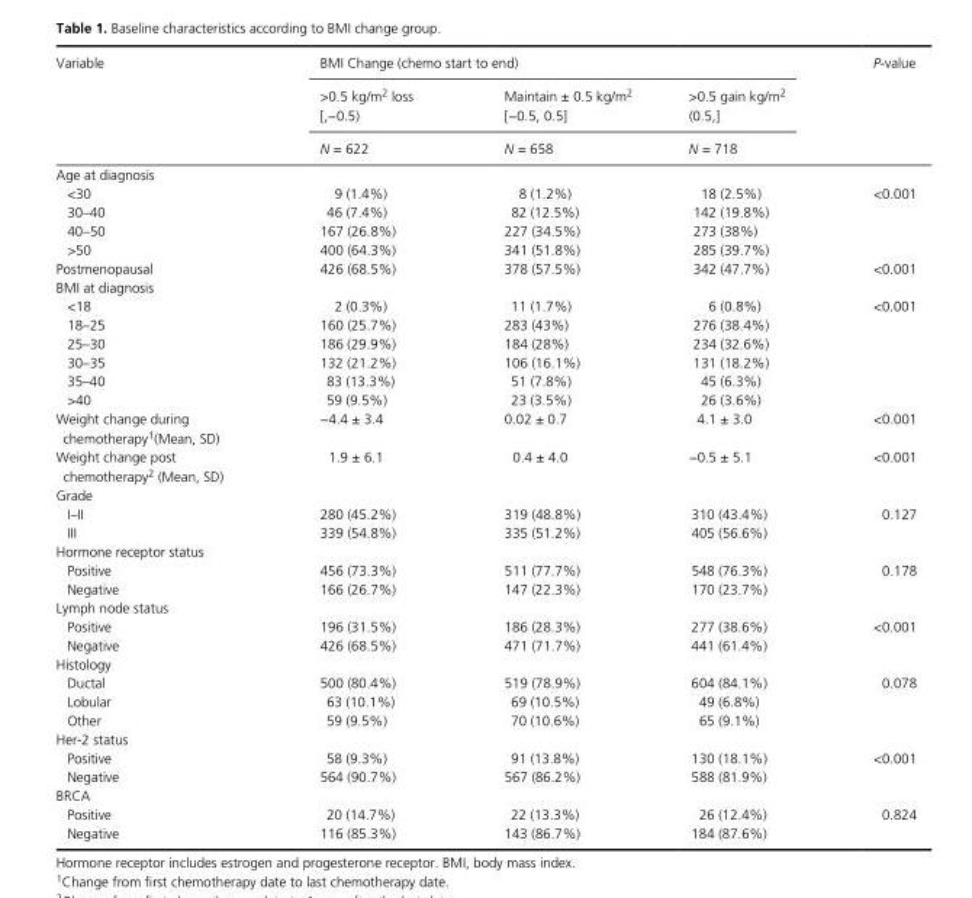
<table><thead><tr><td rowspan="3">Variable</td><td colspan="3">BMI Change (chemo start to end)</td><td rowspan="3">P- value</td></tr><tr><td rowspan="2">&gt;0.5 kg/m<sup>2</sup> loss [,−0.5) N = 622</td><td rowspan="2">Maintain ± 0.5 kg/m<sup>2</sup> [−0.5, 0.5] N = 658</td><td rowspan="2">&gt;0.5 gain kg/m<sup>2</sup> (0.5,] N = 718</td></tr><tr></tr></thead><tbody><tr><td colspan="5">Age at diagnosis</td></tr><tr><td>&lt;30</td><td>9 (1.4%)</td><td>8 (1.2%)</td><td>18 (2.5%)</td><td>&lt;0.001</td></tr><tr><td>30–40</td><td>46 (7.4%)</td><td>82 (12.5%)</td><td>142 (19.8%)</td><td></td></tr><tr><td>40–50</td><td>167 (26.8%)</td><td>227 (34.5%)</td><td>273 (38%)</td><td></td></tr><tr><td>&gt;50</td><td>400 (64.3%)</td><td>341 (51.8%)</td><td>285 (39.7%)</td><td></td></tr><tr><td>Postmenopausal</td><td>426 (68.5%)</td><td>378 (57.5%)</td><td>342 (47.7%)</td><td>&lt;0.001</td></tr><tr><td colspan="5">BMI at diagnosis</td></tr><tr><td>&lt;18</td><td>2 (0.3%)</td><td>11 (1.7%)</td><td>6 (0.8%)</td><td>&lt;0.001</td></tr><tr><td>18–25</td><td>160 (25.7%)</td><td>283 (43%)</td><td>276 (38.4%)</td><td></td></tr><tr><td>25–30</td><td>186 (29.9%)</td><td>184 (28%)</td><td>234 (32.6%)</td><td></td></tr><tr><td>30–35</td><td>132 (21.2%)</td><td>106 (16.1%)</td><td>131 (18.2%)</td><td></td></tr><tr><td>35–40</td><td>83 (13.3%)</td><td>51 (7.8%)</td><td>45 (6.3%)</td><td></td></tr><tr><td>&gt;40</td><td>59 (9.5%)</td><td>23 (3.5%)</td><td>26 (3.6%)</td><td></td></tr><tr><td>Weight change during chemotherapy1(Mean, SD)</td><td>−4.4 ± 3.4</td><td>0.02 ± 0.7</td><td>4.1 ± 3.0</td><td>&lt;0.001</td></tr><tr><td>Weight change post chemotherapy2 (Mean, SD)</td><td>1.9 ± 6.1</td><td>0.4 ± 4.0</td><td>−0.5 ± 5.1</td><td>&lt;0.001</td></tr><tr><td colspan="5">Grade</td></tr><tr><td>I–II</td><td>280 (45.2%)</td><td>319 (48.8%)</td><td>310 (43.4%)</td><td>0.127</td></tr><tr><td>III</td><td>339 (54.8%)</td><td>335 (51.2%)</td><td>405 (56.6%)</td><td></td></tr><tr><td colspan="5">Hormone receptor status</td></tr><tr><td>Positive</td><td>456 (73.3%)</td><td>511 (77.7%)</td><td>548 (76.3%)</td><td>0.178</td></tr><tr><td>Negative</td><td>166 (26.7%)</td><td>147 (22.3%)</td><td>170 (23.7%)</td><td></td></tr><tr><td colspan="5">Lymph node status</td></tr><tr><td>Positive</td><td>196 (31.5%)</td><td>186 (28.3%)</td><td>277 (38.6%)</td><td>&lt;0.001</td></tr><tr><td>Negative</td><td>426 (68.5%)</td><td>471 (71.7%)</td><td>441 (61.4%)</td><td></td></tr><tr><td colspan="5">Histology</td></tr><tr><td>Ductal</td><td>500 (80.4%)</td><td>519 (78.9%)</td><td>604 (84.1%)</td><td>0.078</td></tr><tr><td>Lobular</td><td>63 (10.1%)</td><td>69 (10.5%)</td><td>49 (6.8%)</td><td></td></tr><tr><td>Other</td><td>59 (9.5%)</td><td>70 (10.6%)</td><td>65 (9.1%)</td><td></td></tr><tr><td colspan="5">Her- 2 status</td></tr><tr><td>Positive</td><td>58 (9.3%)</td><td>91 (13.8%)</td><td>130 (18.1%)</td><td>&lt;0.001</td></tr><tr><td>Negative</td><td>564 (90.7%)</td><td>567 (86.2%)</td><td>588 (81.9%)</td><td></td></tr><tr><td colspan="5">BRCA</td></tr><tr><td>Positive</td><td>20 (14.7%)</td><td>22 (13.3%)</td><td>26 (12.4%)</td><td>0.824</td></tr><tr><td>Negative</td><td>116 (85.3%)</td><td>143 (86.7%)</td><td>184 (87.6%)</td><td></td></tr></tbody></table>